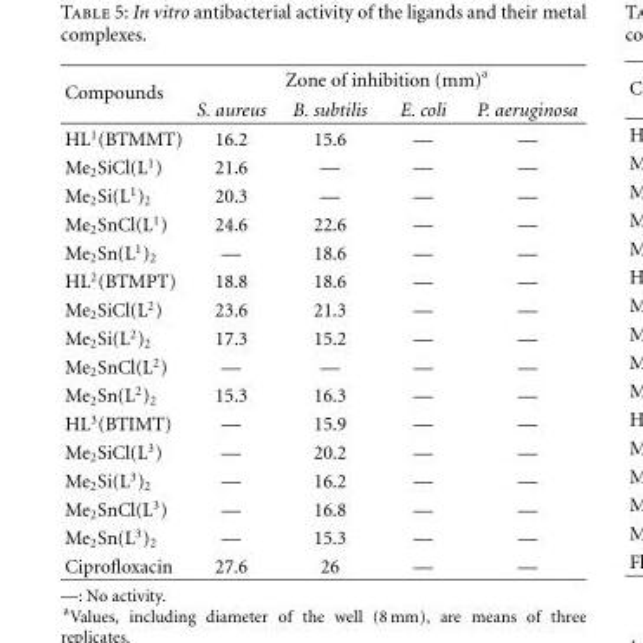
<table><thead><tr><td rowspan="2">Compounds</td><td colspan="4">Zone of inhibition (mm)<sup>a</sup></td></tr><tr><td>S. aureus</td><td>B. subtilis</td><td>E. coli</td><td>P. aeruginosa</td></tr></thead><tbody><tr><td>HL<sup>1</sup>(BTMMT)</td><td>16.2</td><td>15.6</td><td>—</td><td>—</td></tr><tr><td>Me<sub>2</sub>SiCl(L<sup>1</sup>)</td><td>21.6</td><td>—</td><td>—</td><td>—</td></tr><tr><td>Me<sub>2</sub>Si(L<sup>1</sup>)<sub>2</sub></td><td>20.3</td><td>—</td><td>—</td><td>—</td></tr><tr><td>Me<sub>2</sub>SnCl(L<sup>1</sup>)</td><td>24.6</td><td>22.6</td><td>—</td><td>—</td></tr><tr><td>Me<sub>2</sub>Sn(L<sup>1</sup>)<sub>2</sub></td><td>—</td><td>18.6</td><td>—</td><td>—</td></tr><tr><td>HL<sup>2</sup>(BTMPT)</td><td>18.8</td><td>18.6</td><td>—</td><td>—</td></tr><tr><td>Me<sub>2</sub>SiCl(L<sup>2</sup>)</td><td>23.6</td><td>21.3</td><td>—</td><td>—</td></tr><tr><td>Me<sub>2</sub>Si(L<sup>2</sup>)<sub>2</sub></td><td>17.3</td><td>15.2</td><td>—</td><td>—</td></tr><tr><td>Me<sub>2</sub>SnCl(L<sup>2</sup>)</td><td>—</td><td>—</td><td>—</td><td>—</td></tr><tr><td>Me<sub>2</sub>Sn(L<sup>2</sup>)<sub>2</sub></td><td>15.3</td><td>16.3</td><td>—</td><td>—</td></tr><tr><td>HL<sup>3</sup>(BTIMT)</td><td>—</td><td>15.9</td><td>—</td><td>—</td></tr><tr><td>Me<sub>2</sub>SiCl(L<sup>3</sup>)</td><td>—</td><td>20.2</td><td>—</td><td>—</td></tr><tr><td>Me<sub>2</sub>Si(L<sup>3</sup>)<sub>2</sub></td><td>—</td><td>16.2</td><td>—</td><td>—</td></tr><tr><td>Me<sub>2</sub>SnCl(L<sup>3</sup>)</td><td>—</td><td>16.8</td><td>—</td><td>—</td></tr><tr><td>Me<sub>2</sub>Sn(L<sup>3</sup>)<sub>2</sub></td><td>—</td><td>15.3</td><td>—</td><td>—</td></tr><tr><td>Ciprofloxacin</td><td>27.6</td><td>26</td><td>—</td><td>—</td></tr></tbody></table>